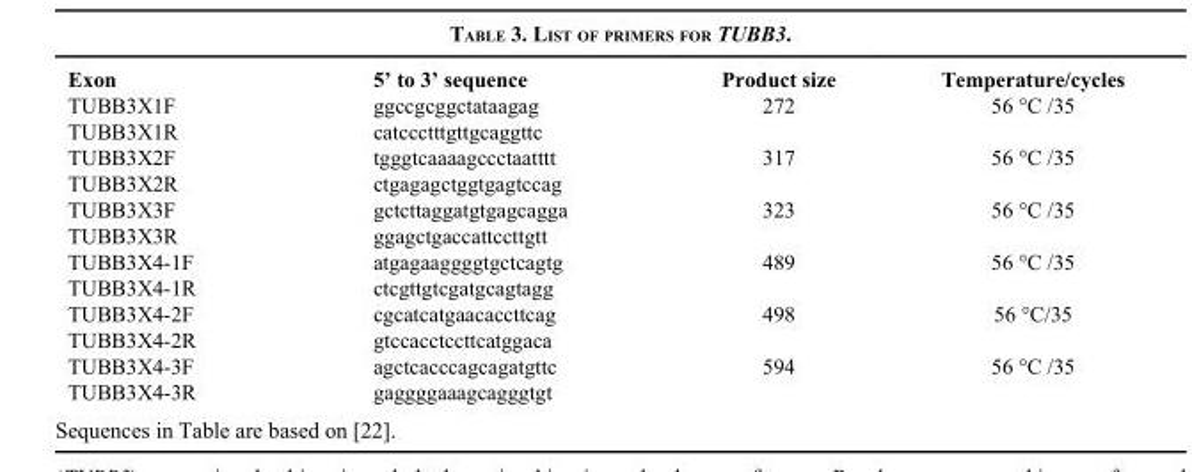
<table><thead><tr><td>Exon</td><td>5’ to 3’ sequence</td><td>Product size</td><td>Temperature/cycles</td></tr></thead><tbody><tr><td>TUBB3X1F</td><td>ggccgcggctataagag</td><td>272</td><td>56 °C /35</td></tr><tr><td>TUBB3X1R</td><td>catccctttgttgcaggttc</td><td></td><td></td></tr><tr><td>TUBB3X2F</td><td>tgggtcaaaagccctaatttt</td><td>317</td><td>56 °C /35</td></tr><tr><td>TUBB3X2R</td><td>ctgagagctggtgagtccag</td><td></td><td></td></tr><tr><td>TUBB3X3F</td><td>gctcttaggatgtgagcagga</td><td>323</td><td>56 °C /35</td></tr><tr><td>TUBB3X3R</td><td>ggagctgaccattccttgtt</td><td></td><td></td></tr><tr><td>TUBB3X4-1F</td><td>atgagaaggggtgctcagtg</td><td>489</td><td>56 °C /35</td></tr><tr><td>TUBB3X4-1R</td><td>ctcgttgtcgatgcagtagg</td><td></td><td></td></tr><tr><td>TUBB3X4-2F</td><td>cgcatcatgaacaccttcag</td><td>498</td><td>56 °C/35</td></tr><tr><td>TUBB3X4-2R</td><td>gtccacctccttcatggaca</td><td></td><td></td></tr><tr><td>TUBB3X4-3F</td><td>agctcacccagcagatgttc</td><td>594</td><td>56 °C /35</td></tr><tr><td>TUBB3X4-3R</td><td>gaggggaaagcagggtgt</td><td></td><td></td></tr></tbody></table>